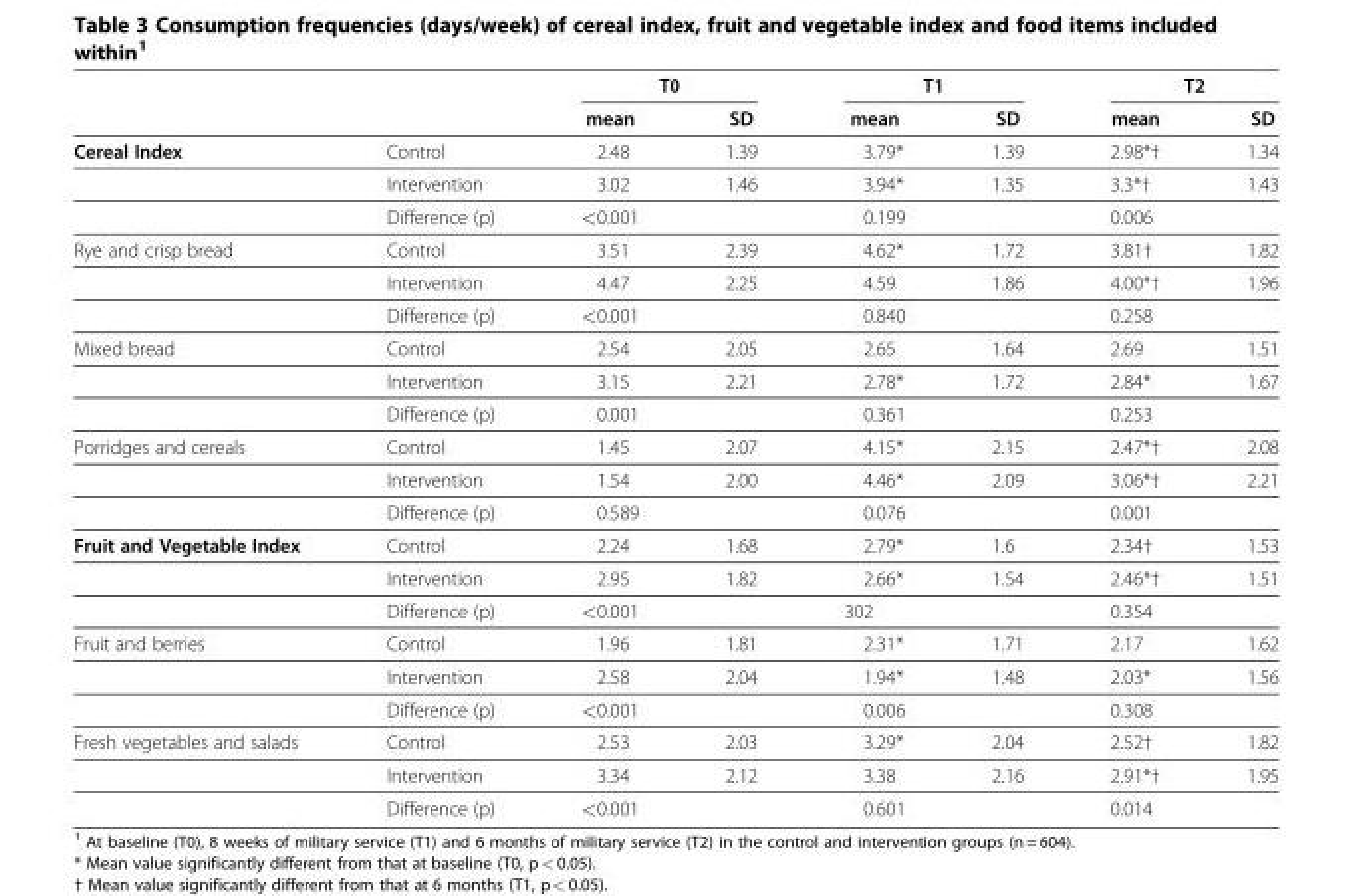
<table><thead><tr><td rowspan="2"></td><td rowspan="2"></td><td colspan="2">T0</td><td colspan="2">T1</td><td colspan="2">T2</td></tr><tr><td>mean</td><td>SD</td><td>mean</td><td>SD</td><td>mean</td><td>SD</td></tr></thead><tbody><tr><td rowspan="3">Cereal Index</td><td>Control</td><td>2.48</td><td>1.39</td><td>3.79*</td><td>1.39</td><td>2.98*†</td><td>1.34</td></tr><tr><td>Intervention</td><td>3.02</td><td>1.46</td><td>3.94*</td><td>1.35</td><td>3.3*†</td><td>1.43</td></tr><tr><td>Difference (p)</td><td>&lt;0.001</td><td></td><td>0.199</td><td></td><td>0.006</td><td></td></tr><tr><td rowspan="3">Rye and crisp bread</td><td>Control</td><td>3.51</td><td>2.39</td><td>4.62*</td><td>1.72</td><td>3.81†</td><td>1.82</td></tr><tr><td>Intervention</td><td>4.47</td><td>2.25</td><td>4.59</td><td>1.86</td><td>4.00*†</td><td>1.96</td></tr><tr><td>Difference (p)</td><td>&lt;0.001</td><td></td><td>0.840</td><td></td><td>0.258</td><td></td></tr><tr><td rowspan="3">Mixed bread</td><td>Control</td><td>2.54</td><td>2.05</td><td>2.65</td><td>1.64</td><td>2.69</td><td>1.51</td></tr><tr><td>Intervention</td><td>3.15</td><td>2.21</td><td>2.78*</td><td>1.72</td><td>2.84*</td><td>1.67</td></tr><tr><td>Difference (p)</td><td>0.001</td><td></td><td>0.361</td><td></td><td>0.253</td><td></td></tr><tr><td rowspan="3">Porridges and cereals</td><td>Control</td><td>1.45</td><td>2.07</td><td>4.15*</td><td>2.15</td><td>2.47*†</td><td>2.08</td></tr><tr><td>Intervention</td><td>1.54</td><td>2.00</td><td>4.46*</td><td>2.09</td><td>3.06*†</td><td>2.21</td></tr><tr><td>Difference (p)</td><td>0.589</td><td></td><td>0.076</td><td></td><td>0.001</td><td></td></tr><tr><td rowspan="3">Fruit and Vegetable Index</td><td>Control</td><td>2.24</td><td>1.68</td><td>2.79*</td><td>1.6</td><td>2.34†</td><td>1.53</td></tr><tr><td>Intervention</td><td>2.95</td><td>1.82</td><td>2.66*</td><td>1.54</td><td>2.46*†</td><td>1.51</td></tr><tr><td>Difference (p)</td><td>&lt;0.001</td><td></td><td>302</td><td></td><td>0.354</td><td></td></tr><tr><td rowspan="3">Fruit and berries</td><td>Control</td><td>1.96</td><td>1.81</td><td>2.31*</td><td>1.71</td><td>2.17</td><td>1.62</td></tr><tr><td>Intervention</td><td>2.58</td><td>2.04</td><td>1.94*</td><td>1.48</td><td>2.03*</td><td>1.56</td></tr><tr><td>Difference (p)</td><td>&lt;0.001</td><td></td><td>0.006</td><td></td><td>0.308</td><td></td></tr><tr><td rowspan="3">Fresh vegetables and salads</td><td>Control</td><td>2.53</td><td>2.03</td><td>3.29*</td><td>2.04</td><td>2.52†</td><td>1.82</td></tr><tr><td>Intervention</td><td>3.34</td><td>2.12</td><td>3.38</td><td>2.16</td><td>2.91*†</td><td>1.95</td></tr><tr><td>Difference (p)</td><td>&lt;0.001</td><td></td><td>0.601</td><td></td><td>0.014</td><td></td></tr></tbody></table>